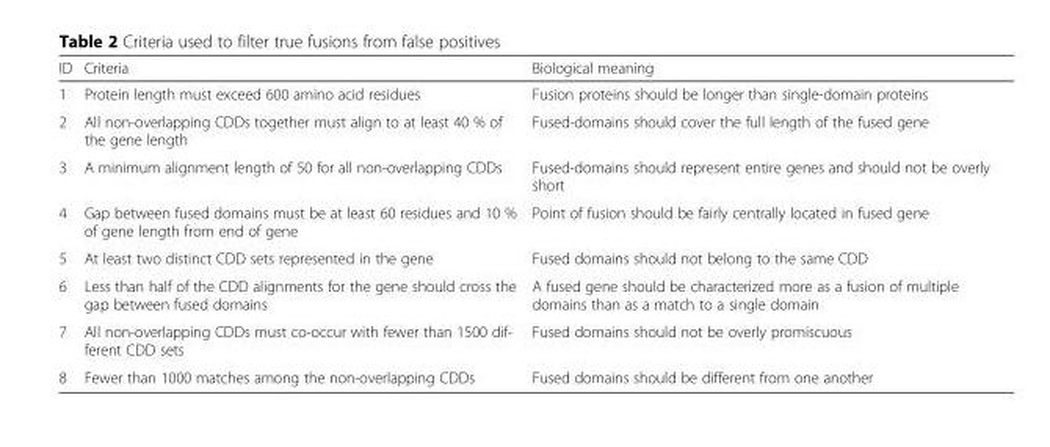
<table><thead><tr><td>ID</td><td>Criteria</td><td>Biological meaning</td></tr></thead><tbody><tr><td>1</td><td>Protein length must exceed 600 amino acid residues</td><td>Fusion proteins should be longer than single-domain proteins</td></tr><tr><td>2</td><td>All non-overlapping CDDs together must align to at least 40 % of the gene length</td><td>Fused-domains should cover the full length of the fused gene</td></tr><tr><td>3</td><td>A minimum alignment length of 50 for all non-overlapping CDDs</td><td>Fused-domains should represent entire genes and should not be overly short</td></tr><tr><td>4</td><td>Gap between fused domains must be at least 60 residues and 10 % of gene length from end of gene</td><td>Point of fusion should be fairly centrally located in fused gene</td></tr><tr><td>5</td><td>At least two distinct CDD sets represented in the gene</td><td>Fused domains should not belong to the same CDD</td></tr><tr><td>6</td><td>Less than half of the CDD alignments for the gene should cross the gap between fused domains</td><td>A fused gene should be characterized more as a fusion of multiple domains than as a match to a single domain</td></tr><tr><td>7</td><td>All non-overlapping CDDs must co-occur with fewer than 1500 dif- ferent CDD sets</td><td>Fused domains should not be overly promiscuous</td></tr><tr><td>8</td><td>Fewer than 1000 matches among the non-overlapping CDDs</td><td>Fused domains should be different from one another</td></tr></tbody></table>